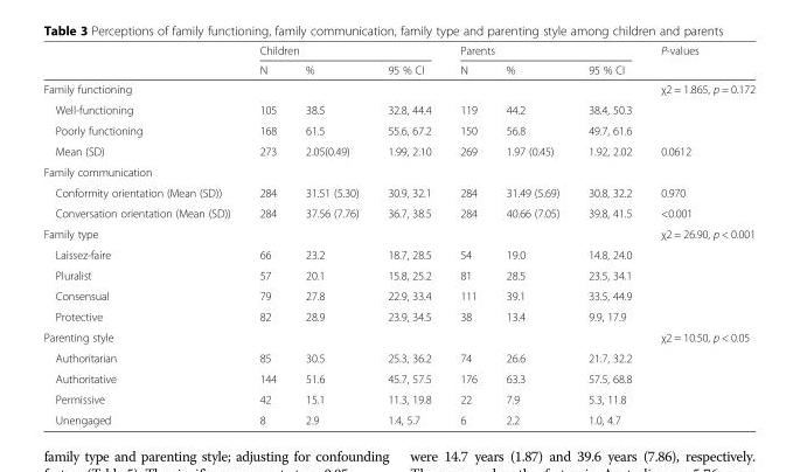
<table><thead><tr><td rowspan="2"></td><td colspan="3">Children</td><td colspan="3">Parents</td><td rowspan="2">P-values</td></tr><tr><td>N</td><td>%</td><td>95 % CI</td><td>N</td><td>%</td><td>95 % CI</td></tr></thead><tbody><tr><td colspan="7">Family functioning</td><td>χ2 = 1.865, p = 0.172</td></tr><tr><td>Well-functioning</td><td>105</td><td>38.5</td><td>32.8, 44.4</td><td>119</td><td>44.2</td><td>38.4, 50.3</td><td></td></tr><tr><td>Poorly functioning</td><td>168</td><td>61.5</td><td>55.6, 67.2</td><td>150</td><td>56.8</td><td>49.7, 61.6</td><td></td></tr><tr><td>Mean (SD)</td><td>273</td><td>2.05(0.49)</td><td>1.99, 2.10</td><td>269</td><td>1.97 (0.45)</td><td>1.92, 2.02</td><td>0.0612</td></tr><tr><td colspan="8">Family communication</td></tr><tr><td>Conformity orientation (Mean (SD))</td><td>284</td><td>31.51 (5.30)</td><td>30.9, 32.1</td><td>284</td><td>31.49 (5.69)</td><td>30.8, 32.2</td><td>0.970</td></tr><tr><td>Conversation orientation (Mean (SD))</td><td>284</td><td>37.56 (7.76)</td><td>36.7, 38.5</td><td>284</td><td>40.66 (7.05)</td><td>39.8, 41.5</td><td>&lt;0.001</td></tr><tr><td colspan="7">Family type</td><td>χ2 = 26.90, p &lt; 0.001</td></tr><tr><td>Laissez-faire</td><td>66</td><td>23.2</td><td>18.7, 28.5</td><td>54</td><td>19.0</td><td>14.8, 24.0</td><td></td></tr><tr><td>Pluralist</td><td>57</td><td>20.1</td><td>15.8, 25.2</td><td>81</td><td>28.5</td><td>23.5, 34.1</td><td></td></tr><tr><td>Consensual</td><td>79</td><td>27.8</td><td>22.9, 33.4</td><td>111</td><td>39.1</td><td>33.5, 44.9</td><td></td></tr><tr><td>Protective</td><td>82</td><td>28.9</td><td>23.9, 34.5</td><td>38</td><td>13.4</td><td>9.9, 17.9</td><td></td></tr><tr><td colspan="7">Parenting style</td><td>χ2 = 10.50, p &lt; 0.05</td></tr><tr><td>Authoritarian</td><td>85</td><td>30.5</td><td>25.3, 36.2</td><td>74</td><td>26.6</td><td>21.7, 32.2</td><td></td></tr><tr><td>Authoritative</td><td>144</td><td>51.6</td><td>45.7, 57.5</td><td>176</td><td>63.3</td><td>57.5, 68.8</td><td></td></tr><tr><td>Permissive</td><td>42</td><td>15.1</td><td>11.3, 19.8</td><td>22</td><td>7.9</td><td>5.3, 11.8</td><td></td></tr><tr><td>Unengaged</td><td>8</td><td>2.9</td><td>1.4, 5.7</td><td>6</td><td>2.2</td><td>1.0, 4.7</td><td></td></tr></tbody></table>